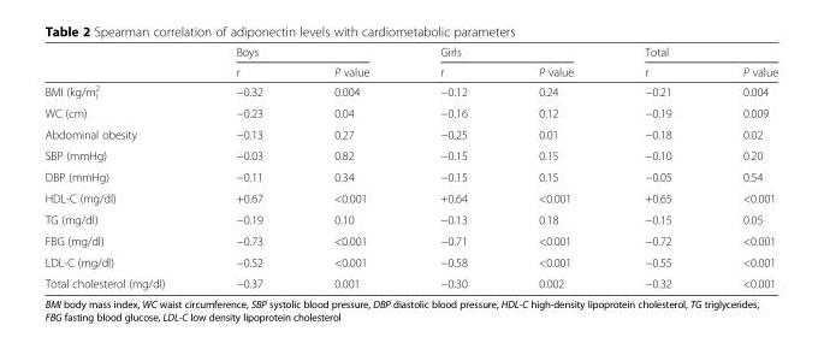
<table><thead><tr><td rowspan="2"></td><td colspan="2">Boys</td><td colspan="2">Girls</td><td colspan="2">Total</td></tr><tr><td>r</td><td>P value</td><td>r</td><td>P value</td><td>r</td><td>P value</td></tr></thead><tbody><tr><td>BMI (kg/m<sup>2</sup> <sub>)</sub></td><td>−0.32</td><td>0.004</td><td>−0.12</td><td>0.24</td><td>−0.21</td><td>0.004</td></tr><tr><td>WC (cm)</td><td>−0.23</td><td>0.04</td><td>−0.16</td><td>0.12</td><td>−0.19</td><td>0.009</td></tr><tr><td>Abdominal obesity</td><td>−0.13</td><td>0.27</td><td>−0.25</td><td>0.01</td><td>−0.18</td><td>0.02</td></tr><tr><td>SBP (mmHg)</td><td>−0.03</td><td>0.82</td><td>−0.15</td><td>0.15</td><td>−0.10</td><td>0.20</td></tr><tr><td>DBP (mmHg)</td><td>−0.11</td><td>0.34</td><td>−0.15</td><td>0.15</td><td>−0.05</td><td>0.54</td></tr><tr><td>HDL-C (mg/dl)</td><td>+0.67</td><td>&lt;0.001</td><td>+0.64</td><td>&lt;0.001</td><td>+0.65</td><td>&lt;0.001</td></tr><tr><td>TG (mg/dl)</td><td>−0.19</td><td>0.10</td><td>−0.13</td><td>0.18</td><td>−0.15</td><td>0.05</td></tr><tr><td>FBG (mg/dl)</td><td>−0.73</td><td>&lt;0.001</td><td>−0.71</td><td>&lt;0.001</td><td>−0.72</td><td>&lt;0.001</td></tr><tr><td>LDL-C (mg/dl)</td><td>−0.52</td><td>&lt;0.001</td><td>−0.58</td><td>&lt;0.001</td><td>−0.55</td><td>&lt;0.001</td></tr><tr><td>Total cholesterol (mg/dl)</td><td>−0.37</td><td>0.001</td><td>−0.30</td><td>0.002</td><td>−0.32</td><td>&lt;0.001</td></tr></tbody></table>